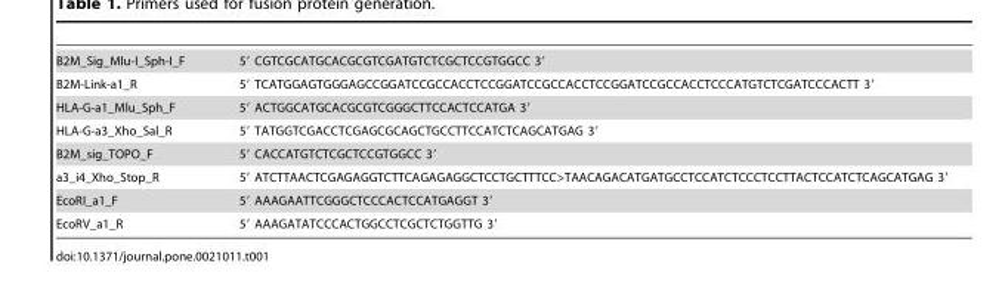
<table><tbody><tr><td>B2M_Sig_Mlu-I_Sph-I_F</td><td>5′ CGTCGCATGCACGCGTCGATGTCTCGCTCCGTGGCC 3′</td></tr><tr><td>B2M-Link-a1_R</td><td>5′ TCATGGAGTGGGAGCCGGATCCGCCACCTCCGGATCCGCCACCTCCGGATCCGCCACCTCCCATGTCTCGATCCCACTT 3′</td></tr><tr><td>HLA-G-a1_Mlu_Sph_F</td><td>5′ ACTGGCATGCACGCGTCGGGCTTCCACTCCATGA 3′</td></tr><tr><td>HLA-G-a3_Xho_Sal_R</td><td>5′ TATGGTCGACCTCGAGCGCAGCTGCCTTCCATCTCAGCATGAG 3′</td></tr><tr><td>B2M_sig_TOPO_F</td><td>5′ CACCATGTCTCGCTCCGTGGCC 3′</td></tr><tr><td>a3_i4_Xho_Stop_R</td><td>5′ ATCTTAACTCGAGAGGTCTTCAGAGAGGCTCCTGCTTTCC&gt;TAACAGACATGATGCCTCCATCTCCCTCCTTACTCCATCTCAGCATGAG 3′</td></tr><tr><td>EcoRI_a1_F</td><td>5′ AAAGAATTCGGGCTCCCACTCCATGAGGT 3′</td></tr><tr><td>EcoRV_a1_R</td><td>5′ AAAGATATCCCACTGGCCTCGCTCTGGTTG 3′</td></tr></tbody></table>